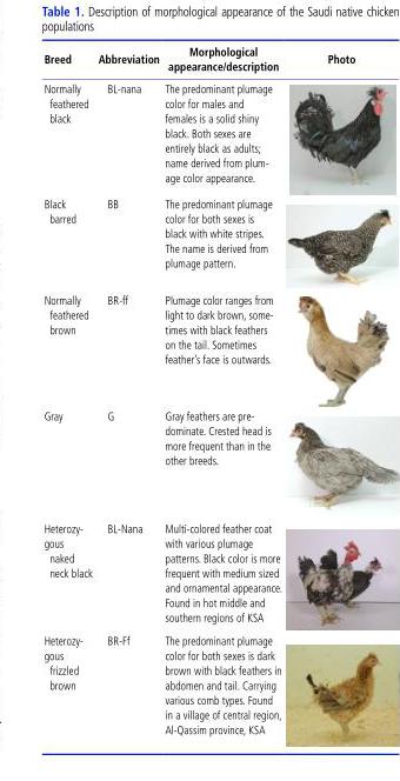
<table><thead><tr><td>Breed</td><td>Abbreviation</td><td>Morphological appearance/description</td><td>Photo</td></tr></thead><tbody><tr><td>Normally feathered black</td><td>BL-nana</td><td>The predominant plumage color for males and females is a solid shiny black. Both sexes are entirely black as adults; name derived from plum- age color appearance.</td><td></td></tr><tr><td>Black barred</td><td>BB</td><td>The predominant plumage color for both sexes is black with white stripes. The name is derived from plumage pattern.</td><td></td></tr><tr><td>Normally feathered brown</td><td>BR-ff</td><td>Plumage color ranges from light to dark brown, some- times with black feathers on the tail. Sometimes feather’s face is outwards.</td><td></td></tr><tr><td>Gray</td><td>G</td><td>Gray feathers are pre- dominate. Crested head is more frequent than in the other breeds.</td><td></td></tr><tr><td>Heterozy- gous naked neck black</td><td>BL-Nana</td><td>Multi-colored feather coat with various plumage patterns. Black color is more frequent with medium sized and ornamental appearance. Found in hot middle and southern regions of KSA</td><td></td></tr><tr><td>Heterozy- gous frizzled brown</td><td>BR-Ff</td><td>The predominant plumage color for both sexes is dark brown with black feathers in abdomen and tail. Carrying various comb types. Found in a village of central region, Al-Qassim province, KSA</td><td></td></tr></tbody></table>